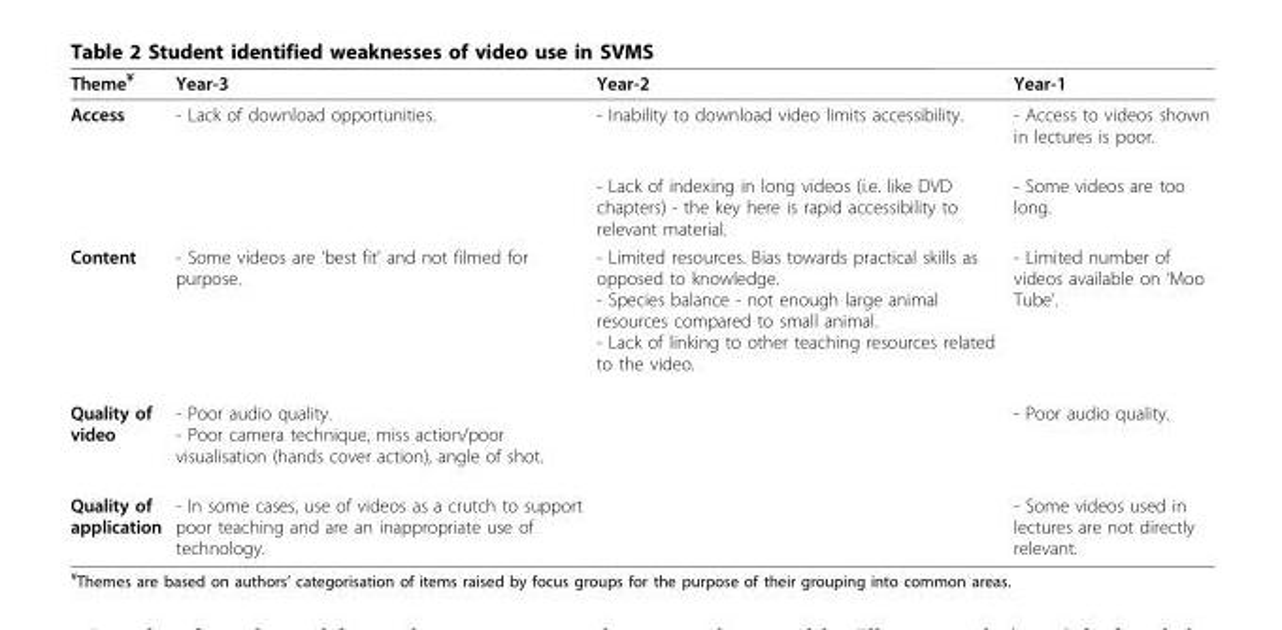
<table><thead><tr><td>Theme<sup>¥</sup></td><td>Year-3</td><td>Year-2</td><td>Year-1</td></tr></thead><tbody><tr><td rowspan="2">Access</td><td>- Lack of download opportunities.</td><td>- Inability to download video limits accessibility.</td><td>- Access to videos shown in lectures is poor.</td></tr><tr><td></td><td>- Lack of indexing in long videos (i.e. like DVD chapters) - the key here is rapid accessibility to relevant material.</td><td>- Some videos are too long.</td></tr><tr><td>Content</td><td>- Some videos are ‘best fit’ and not filmed for purpose.</td><td>- Limited resources. Bias towards practical skills as opposed to knowledge. - Species balance - not enough large animal resources compared to small animal. - Lack of linking to other teaching resources related to the video.</td><td>- Limited number of videos available on ‘Moo Tube’.</td></tr><tr><td>Quality of video</td><td>- Poor audio quality. - Poor camera technique, miss action/poor visualisation (hands cover action), angle of shot.</td><td></td><td>- Poor audio quality.</td></tr><tr><td>Quality of application</td><td>- In some cases, use of videos as a crutch to support poor teaching and are an inappropriate use of technology.</td><td></td><td>- Some videos used in lectures are not directly relevant.</td></tr></tbody></table>